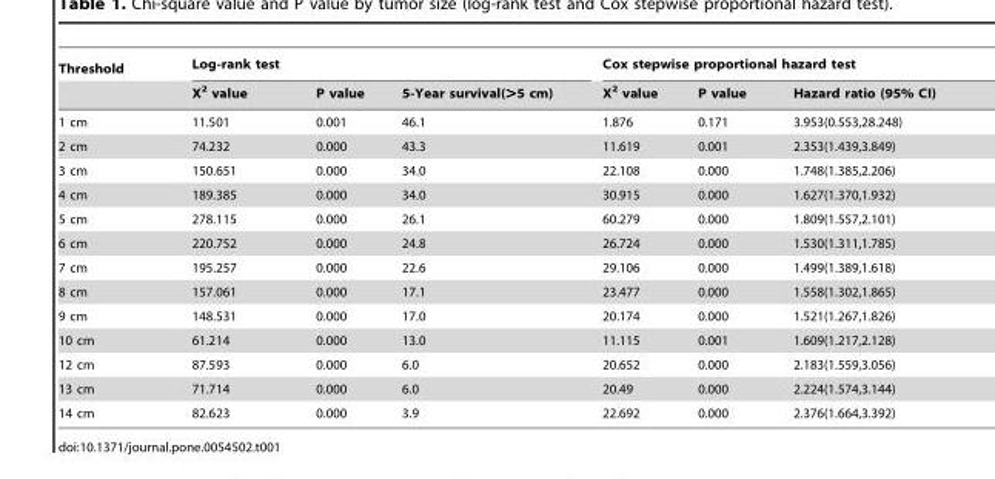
<table><thead><tr><td rowspan="2">Threshold</td><td colspan="3">Log-rank test</td><td colspan="3">Cox stepwise proportional hazard test</td></tr><tr><td>X<sup>2</sup> value</td><td>P value</td><td>5-Year survival(&gt;5 cm)</td><td>X<sup>2</sup> value</td><td>P value</td><td>Hazard ratio (95% CI)</td></tr></thead><tbody><tr><td>1 cm</td><td>11.501</td><td>0.001</td><td>46.1</td><td>1.876</td><td>0.171</td><td>3.953(0.553,28.248)</td></tr><tr><td>2 cm</td><td>74.232</td><td>0.000</td><td>43.3</td><td>11.619</td><td>0.001</td><td>2.353(1.439,3.849)</td></tr><tr><td>3 cm</td><td>150.651</td><td>0.000</td><td>34.0</td><td>22.108</td><td>0.000</td><td>1.748(1.385,2.206)</td></tr><tr><td>4 cm</td><td>189.385</td><td>0.000</td><td>34.0</td><td>30.915</td><td>0.000</td><td>1.627(1.370,1.932)</td></tr><tr><td>5 cm</td><td>278.115</td><td>0.000</td><td>26.1</td><td>60.279</td><td>0.000</td><td>1.809(1.557,2.101)</td></tr><tr><td>6 cm</td><td>220.752</td><td>0.000</td><td>24.8</td><td>26.724</td><td>0.000</td><td>1.530(1.311,1.785)</td></tr><tr><td>7 cm</td><td>195.257</td><td>0.000</td><td>22.6</td><td>29.106</td><td>0.000</td><td>1.499(1.389,1.618)</td></tr><tr><td>8 cm</td><td>157.061</td><td>0.000</td><td>17.1</td><td>23.477</td><td>0.000</td><td>1.558(1.302,1.865)</td></tr><tr><td>9 cm</td><td>148.531</td><td>0.000</td><td>17.0</td><td>20.174</td><td>0.000</td><td>1.521(1.267,1.826)</td></tr><tr><td>10 cm</td><td>61.214</td><td>0.000</td><td>13.0</td><td>11.115</td><td>0.001</td><td>1.609(1.217,2.128)</td></tr><tr><td>12 cm</td><td>87.593</td><td>0.000</td><td>6.0</td><td>20.652</td><td>0.000</td><td>2.183(1.559,3.056)</td></tr><tr><td>13 cm</td><td>71.714</td><td>0.000</td><td>6.0</td><td>20.49</td><td>0.000</td><td>2.224(1.574,3.144)</td></tr><tr><td>14 cm</td><td>82.623</td><td>0.000</td><td>3.9</td><td>22.692</td><td>0.000</td><td>2.376(1.664,3.392)</td></tr></tbody></table>